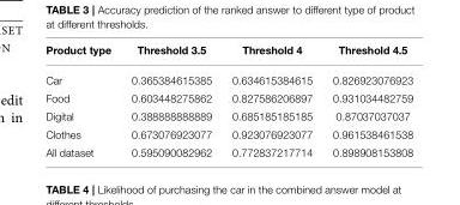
<table><thead><tr><td>Product type</td><td>Threshold 3.5</td><td>Threshold 4</td><td>Threshold 4.5</td></tr></thead><tbody><tr><td>Car</td><td>0.365384615385</td><td>0.634615384615</td><td>0.826923076923</td></tr><tr><td>Food</td><td>0.603448275862</td><td>0.827586206897</td><td>0.931034482759</td></tr><tr><td>Digital</td><td>0.388888888889</td><td>0.685185185185</td><td>0.87037037037</td></tr><tr><td>Clothes</td><td>0.673076923077</td><td>0.923076923077</td><td>0.961538461538</td></tr><tr><td>All dataset</td><td>0.595090082962</td><td>0.772837217714</td><td>0.898908153808</td></tr></tbody></table>